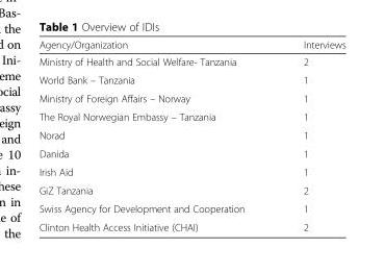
<table><thead><tr><td>Agency/Organization</td><td>Interviews</td></tr></thead><tbody><tr><td>Ministry of Health and Social Welfare- Tanzania</td><td>2</td></tr><tr><td>World Bank – Tanzania</td><td>1</td></tr><tr><td>Ministry of Foreign Affairs – Norway</td><td>1</td></tr><tr><td>The Royal Norwegian Embassy – Tanzania</td><td>1</td></tr><tr><td>Norad</td><td>1</td></tr><tr><td>Danida</td><td>1</td></tr><tr><td>Irish Aid</td><td>1</td></tr><tr><td>GiZ Tanzania</td><td>2</td></tr><tr><td>Swiss Agency for Development and Cooperation</td><td>1</td></tr><tr><td>Clinton Health Access Initiative (CHAI)</td><td>2</td></tr></tbody></table>